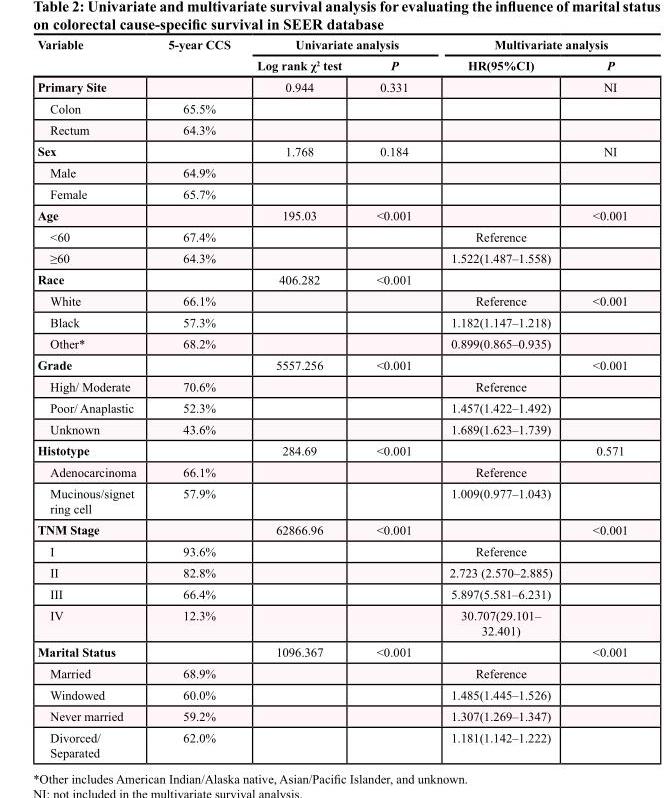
<table><thead><tr><td rowspan="2">Variable</td><td rowspan="2">5-year CCS</td><td colspan="2">Univariate analysis</td><td colspan="2">Multivariate analysis</td></tr><tr><td>Log rank χ<sup>2</sup> test</td><td>P</td><td>HR(95%CI)</td><td>P</td></tr></thead><tbody><tr><td>Primary Site</td><td></td><td>0.944</td><td>0.331</td><td></td><td>NI</td></tr><tr><td>Colon</td><td>65.5%</td><td></td><td></td><td></td><td></td></tr><tr><td>Rectum</td><td>64.3%</td><td></td><td></td><td></td><td></td></tr><tr><td>Sex</td><td></td><td>1.768</td><td>0.184</td><td></td><td>NI</td></tr><tr><td>Male</td><td>64.9%</td><td></td><td></td><td></td><td></td></tr><tr><td>Female</td><td>65.7%</td><td></td><td></td><td></td><td></td></tr><tr><td>Age</td><td></td><td>195.03</td><td>&lt;0.001</td><td></td><td>&lt;0.001</td></tr><tr><td>&lt;60</td><td>67.4%</td><td></td><td></td><td>Reference</td><td></td></tr><tr><td>≥60</td><td>64.3%</td><td></td><td></td><td>1.522(1.487–1.558)</td><td></td></tr><tr><td>Race</td><td></td><td>406.282</td><td>&lt;0.001</td><td></td><td></td></tr><tr><td>White</td><td>66.1%</td><td></td><td></td><td>Reference</td><td>&lt;0.001</td></tr><tr><td>Black</td><td>57.3%</td><td></td><td></td><td>1.182(1.147–1.218)</td><td></td></tr><tr><td>Other*</td><td>68.2%</td><td></td><td></td><td>0.899(0.865–0.935)</td><td></td></tr><tr><td>Grade</td><td></td><td>5557.256</td><td>&lt;0.001</td><td></td><td>&lt;0.001</td></tr><tr><td>High/ Moderate</td><td>70.6%</td><td></td><td></td><td>Reference</td><td></td></tr><tr><td>Poor/ Anaplastic</td><td>52.3%</td><td></td><td></td><td>1.457(1.422–1.492)</td><td></td></tr><tr><td>Unknown</td><td>43.6%</td><td></td><td></td><td>1.689(1.623–1.739)</td><td></td></tr><tr><td>Histotype</td><td></td><td>284.69</td><td>&lt;0.001</td><td></td><td>0.571</td></tr><tr><td>Adenocarcinoma</td><td>66.1%</td><td></td><td></td><td>Reference</td><td></td></tr><tr><td>Mucinous/signet ring cell</td><td>57.9%</td><td></td><td></td><td>1.009(0.977–1.043)</td><td></td></tr><tr><td>TNM Stage</td><td></td><td>62866.96</td><td>&lt;0.001</td><td></td><td>&lt;0.001</td></tr><tr><td>I</td><td>93.6%</td><td></td><td></td><td>Reference</td><td></td></tr><tr><td>II</td><td>82.8%</td><td></td><td></td><td>2.723 (2.570–2.885)</td><td></td></tr><tr><td>III</td><td>66.4%</td><td></td><td></td><td>5.897(5.581–6.231)</td><td></td></tr><tr><td>IV</td><td>12.3%</td><td></td><td></td><td>30.707(29.101– 32.401)</td><td></td></tr><tr><td>Marital Status</td><td></td><td>1096.367</td><td>&lt;0.001</td><td></td><td>&lt;0.001</td></tr><tr><td>Married</td><td>68.9%</td><td></td><td></td><td>Reference</td><td></td></tr><tr><td>Windowed</td><td>60.0%</td><td></td><td></td><td>1.485(1.445–1.526)</td><td></td></tr><tr><td>Never married</td><td>59.2%</td><td></td><td></td><td>1.307(1.269–1.347)</td><td></td></tr><tr><td>Divorced/ Separated</td><td>62.0%</td><td></td><td></td><td>1.181(1.142–1.222)</td><td></td></tr></tbody></table>